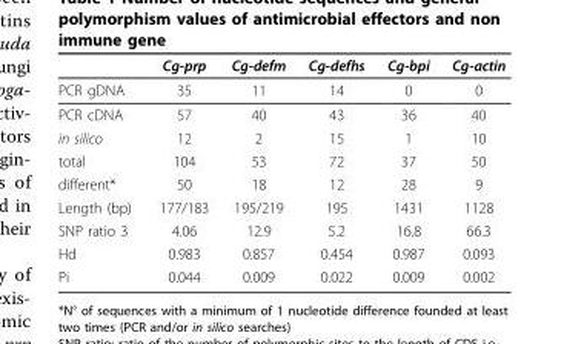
<table><thead><tr><td></td><td>Cg-prp</td><td>Cg-defm</td><td>Cg-defhs</td><td>Cg-bpi</td><td>Cg-actin</td></tr></thead><tbody><tr><td>PCR gDNA</td><td>35</td><td>11</td><td>14</td><td>0</td><td>0</td></tr><tr><td>PCR cDNA</td><td>57</td><td>40</td><td>43</td><td>36</td><td>40</td></tr><tr><td>in silico</td><td>12</td><td>2</td><td>15</td><td>1</td><td>10</td></tr><tr><td>total</td><td>104</td><td>53</td><td>72</td><td>37</td><td>50</td></tr><tr><td>different*</td><td>50</td><td>18</td><td>12</td><td>28</td><td>9</td></tr><tr><td>Length (bp)</td><td>177/183</td><td>195/219</td><td>195</td><td>1431</td><td>1128</td></tr><tr><td>SNP ratio 3</td><td>4.06</td><td>12.9</td><td>5.2</td><td>16.8</td><td>66.3</td></tr><tr><td>Hd</td><td>0.983</td><td>0.857</td><td>0.454</td><td>0.987</td><td>0.093</td></tr><tr><td>Pi</td><td>0.044</td><td>0.009</td><td>0.022</td><td>0.009</td><td>0.002</td></tr></tbody></table>